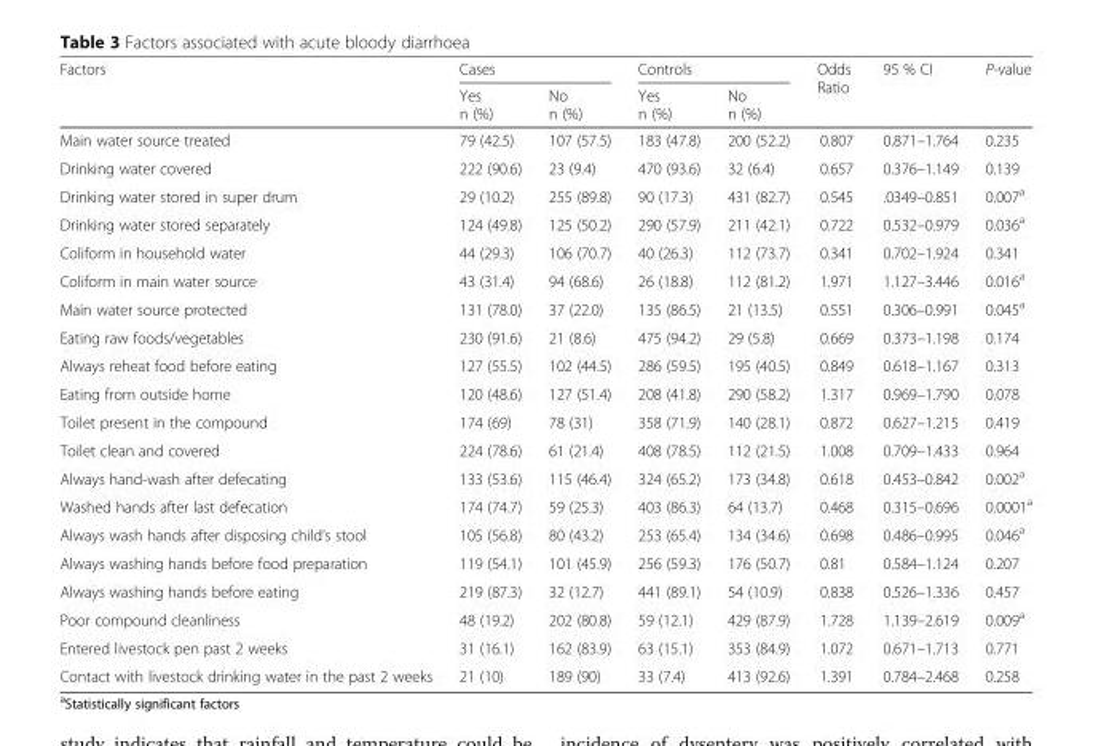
<table><thead><tr><td rowspan="2">Factors</td><td colspan="2">Cases</td><td colspan="2">Controls</td><td rowspan="2">Odds Ratio</td><td rowspan="2">95 % CI</td><td rowspan="2">P-value</td></tr><tr><td>Yes n (%)</td><td>No n (%)</td><td>Yes n (%)</td><td>No n (%)</td></tr></thead><tbody><tr><td>Main water source treated</td><td>79 (42.5)</td><td>107 (57.5)</td><td>183 (47.8)</td><td>200 (52.2)</td><td>0.807</td><td>0.871–1.764</td><td>0.235</td></tr><tr><td>Drinking water covered</td><td>222 (90.6)</td><td>23 (9.4)</td><td>470 (93.6)</td><td>32 (6.4)</td><td>0.657</td><td>0.376–1.149</td><td>0.139</td></tr><tr><td>Drinking water stored in super drum</td><td>29 (10.2)</td><td>255 (89.8)</td><td>90 (17.3)</td><td>431 (82.7)</td><td>0.545</td><td>.0349–0.851</td><td>0.007<sup>a</sup></td></tr><tr><td>Drinking water stored separately</td><td>124 (49.8)</td><td>125 (50.2)</td><td>290 (57.9)</td><td>211 (42.1)</td><td>0.722</td><td>0.532–0.979</td><td>0.036<sup>a</sup></td></tr><tr><td>Coliform in household water</td><td>44 (29.3)</td><td>106 (70.7)</td><td>40 (26.3)</td><td>112 (73.7)</td><td>0.341</td><td>0.702–1.924</td><td>0.341</td></tr><tr><td>Coliform in main water source</td><td>43 (31.4)</td><td>94 (68.6)</td><td>26 (18.8)</td><td>112 (81.2)</td><td>1.971</td><td>1.127–3.446</td><td>0.016<sup>a</sup></td></tr><tr><td>Main water source protected</td><td>131 (78.0)</td><td>37 (22.0)</td><td>135 (86.5)</td><td>21 (13.5)</td><td>0.551</td><td>0.306–0.991</td><td>0.045<sup>a</sup></td></tr><tr><td>Eating raw foods/vegetables</td><td>230 (91.6)</td><td>21 (8.6)</td><td>475 (94.2)</td><td>29 (5.8)</td><td>0.669</td><td>0.373–1.198</td><td>0.174</td></tr><tr><td>Always reheat food before eating</td><td>127 (55.5)</td><td>102 (44.5)</td><td>286 (59.5)</td><td>195 (40.5)</td><td>0.849</td><td>0.618–1.167</td><td>0.313</td></tr><tr><td>Eating from outside home</td><td>120 (48.6)</td><td>127 (51.4)</td><td>208 (41.8)</td><td>290 (58.2)</td><td>1.317</td><td>0.969–1.790</td><td>0.078</td></tr><tr><td>Toilet present in the compound</td><td>174 (69)</td><td>78 (31)</td><td>358 (71.9)</td><td>140 (28.1)</td><td>0.872</td><td>0.627–1.215</td><td>0.419</td></tr><tr><td>Toilet clean and covered</td><td>224 (78.6)</td><td>61 (21.4)</td><td>408 (78.5)</td><td>112 (21.5)</td><td>1.008</td><td>0.709–1.433</td><td>0.964</td></tr><tr><td>Always hand-wash after defecating</td><td>133 (53.6)</td><td>115 (46.4)</td><td>324 (65.2)</td><td>173 (34.8)</td><td>0.618</td><td>0.453–0.842</td><td>0.002<sup>a</sup></td></tr><tr><td>Washed hands after last defecation</td><td>174 (74.7)</td><td>59 (25.3)</td><td>403 (86.3)</td><td>64 (13.7)</td><td>0.468</td><td>0.315–0.696</td><td>0.0001<sup>a</sup></td></tr><tr><td>Always wash hands after disposing child’s stool</td><td>105 (56.8)</td><td>80 (43.2)</td><td>253 (65.4)</td><td>134 (34.6)</td><td>0.698</td><td>0.486–0.995</td><td>0.046<sup>a</sup></td></tr><tr><td>Always washing hands before food preparation</td><td>119 (54.1)</td><td>101 (45.9)</td><td>256 (59.3)</td><td>176 (50.7)</td><td>0.81</td><td>0.584–1.124</td><td>0.207</td></tr><tr><td>Always washing hands before eating</td><td>219 (87.3)</td><td>32 (12.7)</td><td>441 (89.1)</td><td>54 (10.9)</td><td>0.838</td><td>0.526–1.336</td><td>0.457</td></tr><tr><td>Poor compound cleanliness</td><td>48 (19.2)</td><td>202 (80.8)</td><td>59 (12.1)</td><td>429 (87.9)</td><td>1.728</td><td>1.139–2.619</td><td>0.009<sup>a</sup></td></tr><tr><td>Entered livestock pen past 2 weeks</td><td>31 (16.1)</td><td>162 (83.9)</td><td>63 (15.1)</td><td>353 (84.9)</td><td>1.072</td><td>0.671–1.713</td><td>0.771</td></tr><tr><td>Contact with livestock drinking water in the past 2 weeks</td><td>21 (10)</td><td>189 (90)</td><td>33 (7.4)</td><td>413 (92.6)</td><td>1.391</td><td>0.784–2.468</td><td>0.258</td></tr></tbody></table>